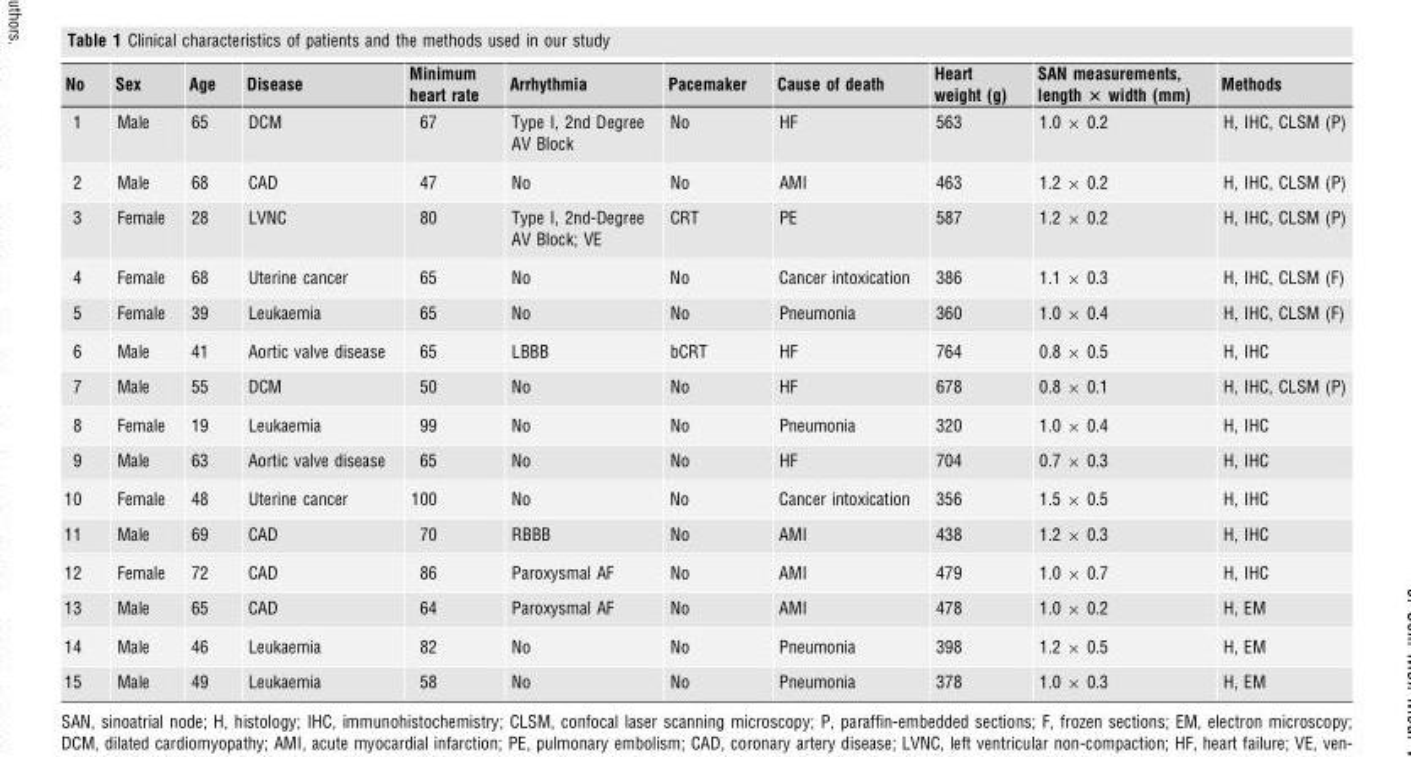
<table><thead><tr><td>No</td><td>Sex</td><td>Age</td><td>Disease</td><td>Minimum heart rate</td><td>Arrhythmia</td><td>Pacemaker</td><td>Cause of death</td><td>Heart weight (g)</td><td>SAN measurements, length × width (mm)</td><td>Methods</td></tr></thead><tbody><tr><td>1</td><td>Male</td><td>65</td><td>DCM</td><td>67</td><td>Type I, 2nd Degree AV Block</td><td>No</td><td>HF</td><td>563</td><td>1.0 × 0.2</td><td>H, IHC, CLSM (P)</td></tr><tr><td>2</td><td>Male</td><td>68</td><td>CAD</td><td>47</td><td>No</td><td>No</td><td>AMI</td><td>463</td><td>1.2 × 0.2</td><td>H, IHC, CLSM (P)</td></tr><tr><td>3</td><td>Female</td><td>28</td><td>LVNC</td><td>80</td><td>Type I, 2nd-Degree AV Block; VE</td><td>CRT</td><td>PE</td><td>587</td><td>1.2 × 0.2</td><td>H, IHC, CLSM (P)</td></tr><tr><td>4</td><td>Female</td><td>68</td><td>Uterine cancer</td><td>65</td><td>No</td><td>No</td><td>Cancer intoxication</td><td>386</td><td>1.1 × 0.3</td><td>H, IHC, CLSM (F)</td></tr><tr><td>5</td><td>Female</td><td>39</td><td>Leukaemia</td><td>65</td><td>No</td><td>No</td><td>Pneumonia</td><td>360</td><td>1.0 × 0.4</td><td>H, IHC, CLSM (F)</td></tr><tr><td>6</td><td>Male</td><td>41</td><td>Aortic valve disease</td><td>65</td><td>LBBB</td><td>bCRT</td><td>HF</td><td>764</td><td>0.8 × 0.5</td><td>H, IHC</td></tr><tr><td>7</td><td>Male</td><td>55</td><td>DCM</td><td>50</td><td>No</td><td>No</td><td>HF</td><td>678</td><td>0.8 × 0.1</td><td>H, IHC, CLSM (P)</td></tr><tr><td>8</td><td>Female</td><td>19</td><td>Leukaemia</td><td>99</td><td>No</td><td>No</td><td>Pneumonia</td><td>320</td><td>1.0 × 0.4</td><td>H, IHC</td></tr><tr><td>9</td><td>Male</td><td>63</td><td>Aortic valve disease</td><td>65</td><td>No</td><td>No</td><td>HF</td><td>704</td><td>0.7 × 0.3</td><td>H, IHC</td></tr><tr><td>10</td><td>Female</td><td>48</td><td>Uterine cancer</td><td>100</td><td>No</td><td>No</td><td>Cancer intoxication</td><td>356</td><td>1.5 × 0.5</td><td>H, IHC</td></tr><tr><td>11</td><td>Male</td><td>69</td><td>CAD</td><td>70</td><td>RBBB</td><td>No</td><td>AMI</td><td>438</td><td>1.2 × 0.3</td><td>H, IHC</td></tr><tr><td>12</td><td>Female</td><td>72</td><td>CAD</td><td>86</td><td>Paroxysmal AF</td><td>No</td><td>AMI</td><td>479</td><td>1.0 × 0.7</td><td>H, IHC</td></tr><tr><td>13</td><td>Male</td><td>65</td><td>CAD</td><td>64</td><td>Paroxysmal AF</td><td>No</td><td>AMI</td><td>478</td><td>1.0 × 0.2</td><td>H, EM</td></tr><tr><td>14</td><td>Male</td><td>46</td><td>Leukaemia</td><td>82</td><td>No</td><td>No</td><td>Pneumonia</td><td>398</td><td>1.2 × 0.5</td><td>H, EM</td></tr><tr><td>15</td><td>Male</td><td>49</td><td>Leukaemia</td><td>58</td><td>No</td><td>No</td><td>Pneumonia</td><td>378</td><td>1.0 × 0.3</td><td>H, EM</td></tr></tbody></table>